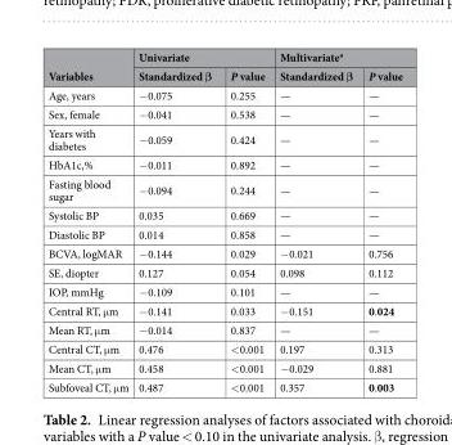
<table><thead><tr><td rowspan="2">Variables</td><td colspan="2">Univariate</td><td colspan="2">Multivariate<sup>a</sup></td></tr><tr><td>Standardized β</td><td>P value</td><td>Standardized β</td><td>P value</td></tr></thead><tbody><tr><td>Age, years</td><td>−0.075</td><td>0.255</td><td>—</td><td>—</td></tr><tr><td>Sex, female</td><td>−0.041</td><td>0.538</td><td>—</td><td>—</td></tr><tr><td>Years with diabetes</td><td>−0.059</td><td>0.424</td><td>—</td><td>—</td></tr><tr><td>HbA1c,%</td><td>−0.011</td><td>0.892</td><td>—</td><td>—</td></tr><tr><td>Fasting blood sugar</td><td>−0.094</td><td>0.244</td><td>—</td><td>—</td></tr><tr><td>Systolic BP</td><td>0.035</td><td>0.669</td><td>—</td><td>—</td></tr><tr><td>Diastolic BP</td><td>0.014</td><td>0.858</td><td>—</td><td>—</td></tr><tr><td>BCVA, logMAR</td><td>−0.144</td><td>0.029</td><td>−0.021</td><td>0.756</td></tr><tr><td>SE, diopter</td><td>0.127</td><td>0.054</td><td>0.098</td><td>0.112</td></tr><tr><td>IOP, mmHg</td><td>−0.109</td><td>0.101</td><td>—</td><td>—</td></tr><tr><td>Central RT, μm</td><td>−0.141</td><td>0.033</td><td>−0.151</td><td>0.024</td></tr><tr><td>Mean RT, μm</td><td>−0.014</td><td>0.837</td><td>—</td><td>—</td></tr><tr><td>Central CT, μm</td><td>0.476</td><td>&lt;0.001</td><td>0.197</td><td>0.313</td></tr><tr><td>Mean CT, μm</td><td>0.458</td><td>&lt;0.001</td><td>−0.029</td><td>0.881</td></tr><tr><td>Subfoveal CT, μm</td><td>0.487</td><td>&lt;0.001</td><td>0.357</td><td>0.003</td></tr></tbody></table>